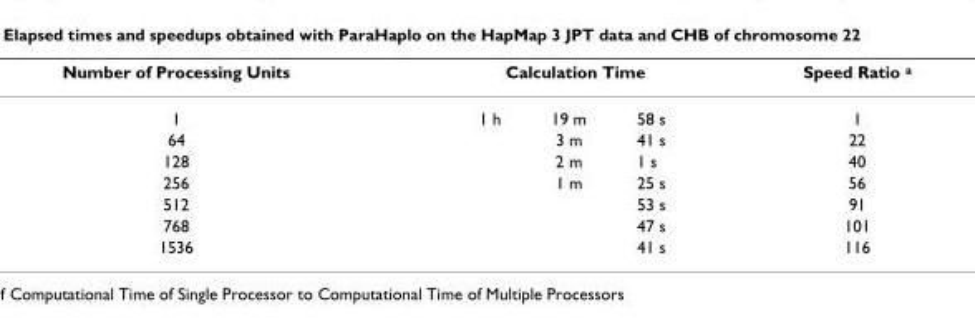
<table><thead><tr><td rowspan="2">Number of Processing Units 1</td><td colspan="3">Calculation Time</td><td rowspan="2">Speed Ratio <sup>a</sup> 1</td></tr><tr><td>1 h</td><td>19 m</td><td>58 s</td></tr></thead><tbody><tr><td>64</td><td></td><td>3 m</td><td>41 s</td><td>22</td></tr><tr><td>128</td><td></td><td>2 m</td><td>1 s</td><td>40</td></tr><tr><td>256</td><td></td><td>1 m</td><td>25 s</td><td>56</td></tr><tr><td>512</td><td></td><td></td><td>53 s</td><td>91</td></tr><tr><td>768</td><td></td><td></td><td>47 s</td><td>101</td></tr><tr><td>1536</td><td></td><td></td><td>41 s</td><td>116</td></tr></tbody></table>